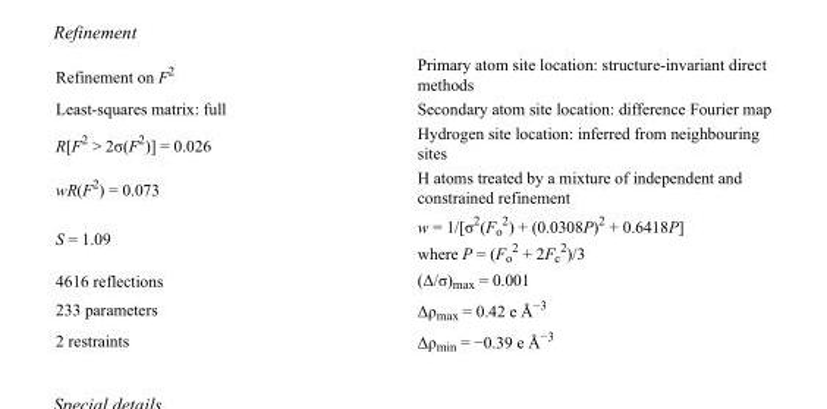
<table><tbody><tr><td>Refinement on F<sup>2</sup></td><td>Primary atom site location: structure-invariant direct methods</td></tr><tr><td>Least-squares matrix: full</td><td>Secondary atom site location: difference Fourier map</td></tr><tr><td>R[F<sup>2</sup> &gt; 2σ(F<sup>2</sup>)] = 0.026</td><td>Hydrogen site location: inferred from neighbouring sites</td></tr><tr><td>wR(F<sup>2</sup>) = 0.073</td><td>H atoms treated by a mixture of independent and constrained refinement</td></tr><tr><td>S = 1.09</td><td>w = 1/[σ<sup>2</sup>(F<sub>o</sub> <sup>2</sup>) + (0.0308P)<sup>2</sup> + 0.6418P] where P = (F<sub>o</sub> <sup>2</sup> + 2F<sub>c</sub> <sup>2</sup>)/3</td></tr><tr><td>4616 reflections</td><td>(Δ/σ)<sub>max</sub> = 0.001</td></tr><tr><td>233 parameters</td><td>Δρ<sub>max</sub> = 0.42 e Å<sup>−3</sup></td></tr><tr><td>2 restraints</td><td>Δρ<sub>min</sub> = −0.39 e Å<sup>−3</sup></td></tr></tbody></table>